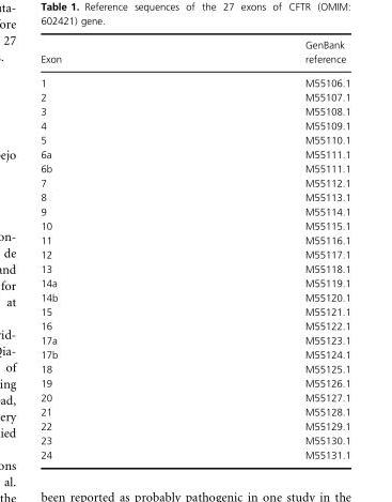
<table><thead><tr><td>Exon</td><td>GenBank reference</td></tr></thead><tbody><tr><td>1</td><td>M55106.1</td></tr><tr><td>2</td><td>M55107.1</td></tr><tr><td>3</td><td>M55108.1</td></tr><tr><td>4</td><td>M55109.1</td></tr><tr><td>5</td><td>M55110.1</td></tr><tr><td>6a</td><td>M55111.1</td></tr><tr><td>6b</td><td>M55111.1</td></tr><tr><td>7</td><td>M55112.1</td></tr><tr><td>8</td><td>M55113.1</td></tr><tr><td>9</td><td>M55114.1</td></tr><tr><td>10</td><td>M55115.1</td></tr><tr><td>11</td><td>M55116.1</td></tr><tr><td>12</td><td>M55117.1</td></tr><tr><td>13</td><td>M55118.1</td></tr><tr><td>14a</td><td>M55119.1</td></tr><tr><td>14b</td><td>M55120.1</td></tr><tr><td>15</td><td>M55121.1</td></tr><tr><td>16</td><td>M55122.1</td></tr><tr><td>17a</td><td>M55123.1</td></tr><tr><td>17b</td><td>M55124.1</td></tr><tr><td>18</td><td>M55125.1</td></tr><tr><td>19</td><td>M55126.1</td></tr><tr><td>20</td><td>M55127.1</td></tr><tr><td>21</td><td>M55128.1</td></tr><tr><td>22</td><td>M55129.1</td></tr><tr><td>23</td><td>M55130.1</td></tr><tr><td>24</td><td>M55131.1</td></tr></tbody></table>